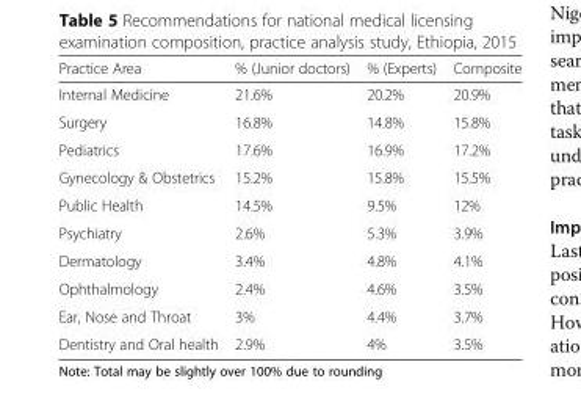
<table><thead><tr><td>Practice Area</td><td>% (Junior doctors)</td><td>% (Experts)</td><td>Composite</td></tr></thead><tbody><tr><td>Internal Medicine</td><td>21.6%</td><td>20.2%</td><td>20.9%</td></tr><tr><td>Surgery</td><td>16.8%</td><td>14.8%</td><td>15.8%</td></tr><tr><td>Pediatrics</td><td>17.6%</td><td>16.9%</td><td>17.2%</td></tr><tr><td>Gynecology &amp; Obstetrics</td><td>15.2%</td><td>15.8%</td><td>15.5%</td></tr><tr><td>Public Health</td><td>14.5%</td><td>9.5%</td><td>12%</td></tr><tr><td>Psychiatry</td><td>2.6%</td><td>5.3%</td><td>3.9%</td></tr><tr><td>Dermatology</td><td>3.4%</td><td>4.8%</td><td>4.1%</td></tr><tr><td>Ophthalmology</td><td>2.4%</td><td>4.6%</td><td>3.5%</td></tr><tr><td>Ear, Nose and Throat</td><td>3%</td><td>4.4%</td><td>3.7%</td></tr><tr><td>Dentistry and Oral health</td><td>2.9%</td><td>4%</td><td>3.5%</td></tr></tbody></table>